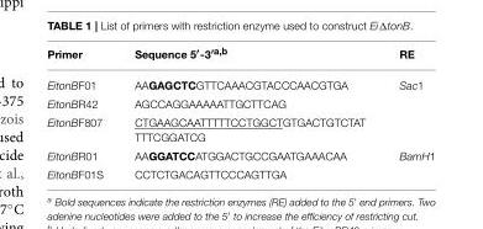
<table><thead><tr><td>Primer</td><td>Sequence 5′-3′<sup>a,b</sup></td><td>RE</td></tr></thead><tbody><tr><td>EitonBF01</td><td>AAGAGCTCGTTCAAACGTACCCAACGTGA</td><td>Sac1</td></tr><tr><td>EitonBR42</td><td>AGCCAGGAAAAATTGCTTCAG</td><td></td></tr><tr><td>EitonBF807</td><td>CTGAAGCAATTTTTCCTGGCTGTGACTGTCTAT TTTCGGATCG</td><td></td></tr><tr><td>EitonBR01</td><td>AAGGATCCATGGACTGCCGAATGAAACAA</td><td>BamH1</td></tr><tr><td>EitonBF01S</td><td>CCTCTGACAGTTCCCAGTTGA</td><td></td></tr></tbody></table>